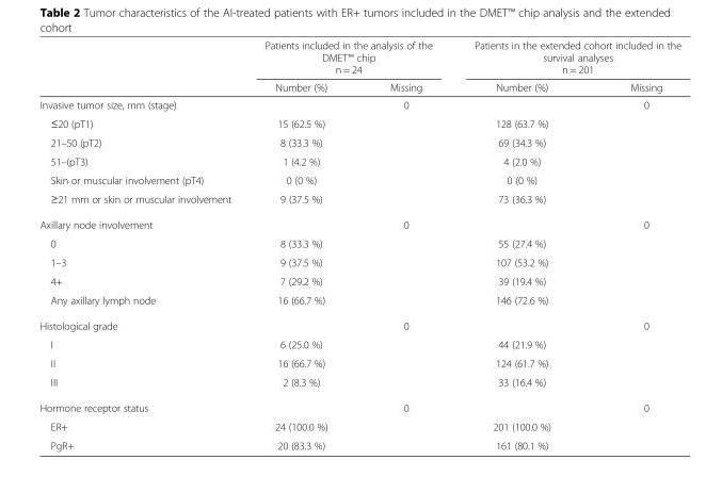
<table><thead><tr><td rowspan="3"></td><td rowspan="2" colspan="2">Patients included in the analysis of the DMET™ chip n = 24</td><td rowspan="2" colspan="2">Patients in the extended cohort included in the survival analyses n = 201</td></tr><tr></tr><tr><td>Number (%)</td><td>Missing</td><td>Number (%)</td><td>Missing</td></tr></thead><tbody><tr><td>Invasive tumor size, mm (stage)</td><td></td><td>0</td><td></td><td>0</td></tr><tr><td>≤20 (pT1)</td><td>15 (62.5 %)</td><td></td><td>128 (63.7 %)</td><td></td></tr><tr><td>21–50 (pT2)</td><td>8 (33.3 %)</td><td></td><td>69 (34.3 %)</td><td></td></tr><tr><td>51–(pT3)</td><td>1 (4.2 %)</td><td></td><td>4 (2.0 %)</td><td></td></tr><tr><td>Skin or muscular involvement (pT4)</td><td>0 (0 %)</td><td></td><td>0 (0 %)</td><td></td></tr><tr><td>≥21 mm or skin or muscular involvement</td><td>9 (37.5 %)</td><td></td><td>73 (36.3 %)</td><td></td></tr><tr><td>Axillary node involvement</td><td></td><td>0</td><td></td><td>0</td></tr><tr><td>0</td><td>8 (33.3 %)</td><td></td><td>55 (27.4 %)</td><td></td></tr><tr><td>1–3</td><td>9 (37.5 %)</td><td></td><td>107 (53.2 %)</td><td></td></tr><tr><td>4+</td><td>7 (29.2 %)</td><td></td><td>39 (19.4 %)</td><td></td></tr><tr><td>Any axillary lymph node</td><td>16 (66.7 %)</td><td></td><td>146 (72.6 %)</td><td></td></tr><tr><td>Histological grade</td><td></td><td>0</td><td></td><td>0</td></tr><tr><td>I</td><td>6 (25.0 %)</td><td></td><td>44 (21.9 %)</td><td></td></tr><tr><td>II</td><td>16 (66.7 %)</td><td></td><td>124 (61.7 %)</td><td></td></tr><tr><td>III</td><td>2 (8.3 %)</td><td></td><td>33 (16.4 %)</td><td></td></tr><tr><td>Hormone receptor status</td><td></td><td>0</td><td></td><td>0</td></tr><tr><td>ER+</td><td>24 (100.0 %)</td><td></td><td>201 (100.0 %)</td><td></td></tr><tr><td>PgR+</td><td>20 (83.3 %)</td><td></td><td>161 (80.1 %)</td><td></td></tr></tbody></table>